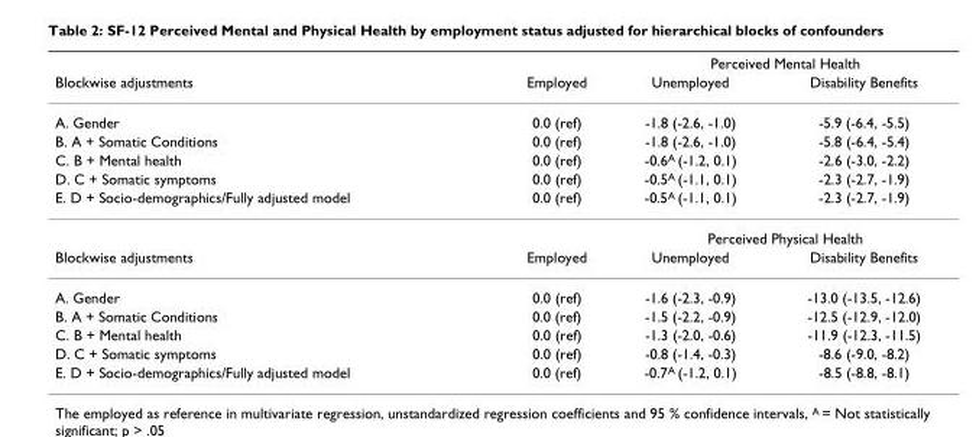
<table><thead><tr><td rowspan="2">Blockwise adjustments</td><td rowspan="2">Employed</td><td colspan="2">Perceived Mental Health</td></tr><tr><td>Unemployed</td><td>Disability Benefits</td></tr></thead><tbody><tr><td>A. Gender</td><td>0.0 (ref)</td><td>-1.8 (-2.6, -1.0)</td><td>-5.9 (-6.4, -5.5)</td></tr><tr><td>B. A + Somatic Conditions</td><td>0.0 (ref)</td><td>-1.8 (-2.6, -1.0)</td><td>-5.8 (-6.4, -5.4)</td></tr><tr><td>C. B + Mental health</td><td>0.0 (ref)</td><td>-0.6A (-1.2, 0.1)</td><td>-2.6 (-3.0, -2.2)</td></tr><tr><td>D. C + Somatic symptoms</td><td>0.0 (ref)</td><td>-0.5A (-1.1, 0.1)</td><td>-2.3 (-2.7, -1.9)</td></tr><tr><td rowspan="2">E. D + Socio-demographics/Fully adjusted model</td><td>0.0 (ref)</td><td>-0.5A (-1.1, 0.1)</td><td>-2.3 (-2.7, -1.9)</td></tr><tr><td></td><td colspan="2">Perceived Physical Health</td></tr><tr><td>Blockwise adjustments</td><td>Employed</td><td>Unemployed</td><td>Disability Benefits</td></tr><tr><td>A. Gender</td><td>0.0 (ref)</td><td>-1.6 (-2.3, -0.9)</td><td>-13.0 (-13.5, -12.6)</td></tr><tr><td>B. A + Somatic Conditions</td><td>0.0 (ref)</td><td>-1.5 (-2.2, -0.9)</td><td>-12.5 (-12.9, -12.0)</td></tr><tr><td>C. B + Mental health</td><td>0.0 (ref)</td><td>-1.3 (-2.0, -0.6)</td><td>-11.9 (-12.3, -11.5)</td></tr><tr><td>D. C + Somatic symptoms</td><td>0.0 (ref)</td><td>-0.8 (-1.4, -0.3)</td><td>-8.6 (-9.0, -8.2)</td></tr><tr><td>E. D + Socio-demographics/Fully adjusted model</td><td>0.0 (ref)</td><td>-0.7A (-1.2, 0.1)</td><td>-8.5 (-8.8, -8.1)</td></tr></tbody></table>